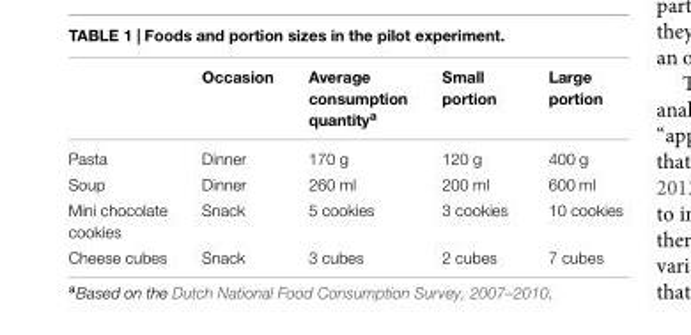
<table><thead><tr><td></td><td>Occasion</td><td>Average consumption quantity<sup>a</sup></td><td>Small portion</td><td>Large portion</td></tr></thead><tbody><tr><td>Pasta</td><td>Dinner</td><td>170 g</td><td>120 g</td><td>400 g</td></tr><tr><td>Soup</td><td>Dinner</td><td>260 ml</td><td>200 ml</td><td>600 ml</td></tr><tr><td>Mini chocolate cookies</td><td>Snack</td><td>5 cookies</td><td>3 cookies</td><td>10 cookies</td></tr><tr><td>Cheese cubes</td><td>Snack</td><td>3 cubes</td><td>2 cubes</td><td>7 cubes</td></tr></tbody></table>